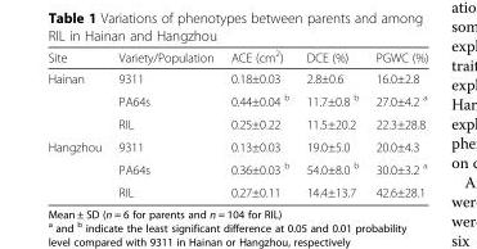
<table><thead><tr><td>Site</td><td>Variety/Population</td><td>ACE (cm<sup>2</sup>)</td><td>DCE (%)</td><td>PGWC (%)</td></tr></thead><tbody><tr><td rowspan="3">Hainan</td><td>9311</td><td>0.18±0.03</td><td>2.8±0.6</td><td>16.0±2.8</td></tr><tr><td>PA64s</td><td>0.44±0.04 <sup>b</sup></td><td>11.7±0.8 <sup>b</sup></td><td>27.0±4.2 <sup>a</sup></td></tr><tr><td>RIL</td><td>0.25±0.22</td><td>11.5±20.2</td><td>22.3±28.8</td></tr><tr><td rowspan="3">Hangzhou</td><td>9311</td><td>0.13±0.03</td><td>19.0±5.0</td><td>20.0±4.3</td></tr><tr><td>PA64s</td><td>0.36±0.03 <sup>b</sup></td><td>54.0±8.0 <sup>b</sup></td><td>30.0±3.2 <sup>a</sup></td></tr><tr><td>RIL</td><td>0.27±0.11</td><td>14.4±13.7</td><td>42.6±28.1</td></tr></tbody></table>